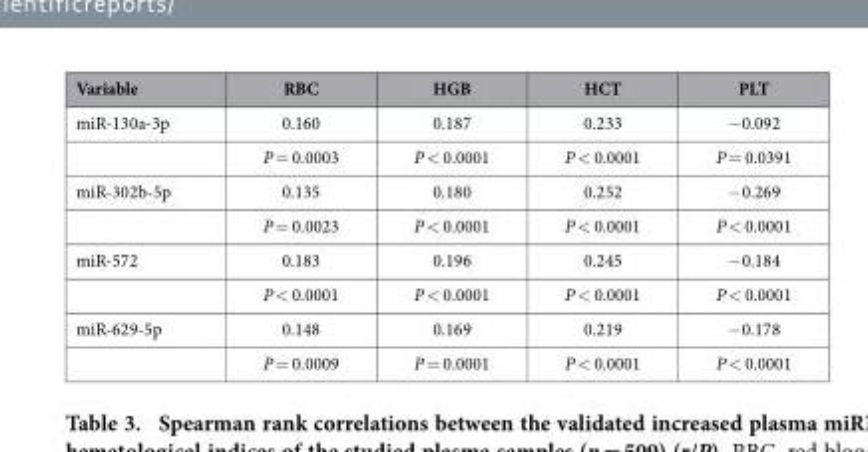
<table><thead><tr><td>Variable</td><td>RBC</td><td>HGB</td><td>HCT</td><td>PLT</td></tr></thead><tbody><tr><td rowspan="2">miR-130a-3p</td><td>0.160</td><td>0.187</td><td>0.233</td><td>− 0.092</td></tr><tr><td>P = 0.0003</td><td>P &lt; 0.0001</td><td>P &lt; 0.0001</td><td>P = 0.0391</td></tr><tr><td rowspan="2">miR-302b-5p</td><td>0.135</td><td>0.180</td><td>0.252</td><td>− 0.269</td></tr><tr><td>P = 0.0023</td><td>P &lt; 0.0001</td><td>P &lt; 0.0001</td><td>P &lt; 0.0001</td></tr><tr><td rowspan="2">miR-572</td><td>0.183</td><td>0.196</td><td>0.245</td><td>− 0.184</td></tr><tr><td>P &lt; 0.0001</td><td>P &lt; 0.0001</td><td>P &lt; 0.0001</td><td>P &lt; 0.0001</td></tr><tr><td rowspan="2">miR-629-5p</td><td>0.148</td><td>0.169</td><td>0.219</td><td>− 0.178</td></tr><tr><td>P = 0.0009</td><td>P = 0.0001</td><td>P &lt; 0.0001</td><td>P &lt; 0.0001</td></tr></tbody></table>